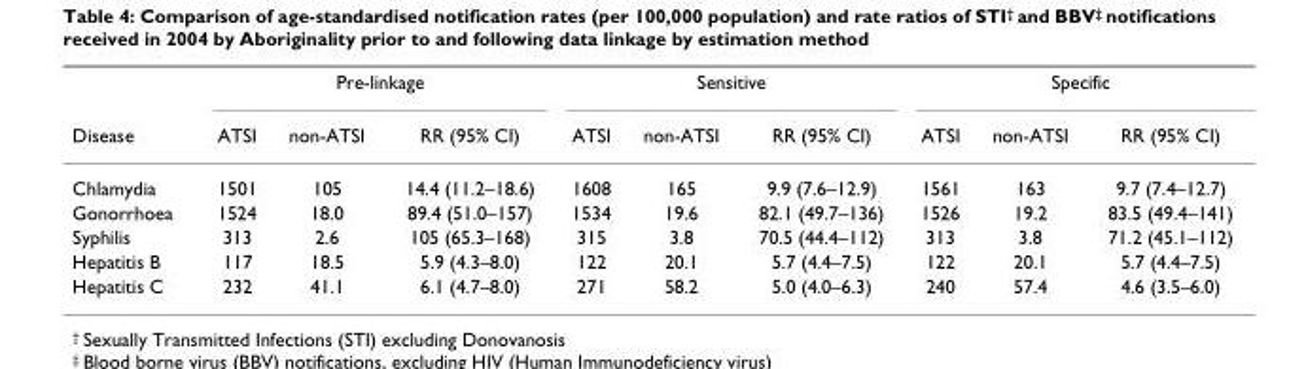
<table><thead><tr><td rowspan="2">Disease</td><td colspan="3">Pre-linkage</td><td colspan="3">Sensitive</td><td colspan="3">Specific</td></tr><tr><td>ATSI</td><td>non-ATSI</td><td>RR (95% CI)</td><td>ATSI</td><td>non-ATSI</td><td>RR (95% CI)</td><td>ATSI</td><td>non-ATSI</td><td>RR (95% CI)</td></tr></thead><tbody><tr><td>Chlamydia</td><td>1501</td><td>105</td><td>14.4 (11.2–18.6)</td><td>1608</td><td>165</td><td>9.9 (7.6–12.9)</td><td>1561</td><td>163</td><td>9.7 (7.4–12.7)</td></tr><tr><td>Gonorrhoea</td><td>1524</td><td>18.0</td><td>89.4 (51.0–157)</td><td>1534</td><td>19.6</td><td>82.1 (49.7–136)</td><td>1526</td><td>19.2</td><td>83.5 (49.4–141)</td></tr><tr><td>Syphilis</td><td>313</td><td>2.6</td><td>105 (65.3–168)</td><td>315</td><td>3.8</td><td>70.5 (44.4–112)</td><td>313</td><td>3.8</td><td>71.2 (45.1–112)</td></tr><tr><td>Hepatitis B</td><td>117</td><td>18.5</td><td>5.9 (4.3–8.0)</td><td>122</td><td>20.1</td><td>5.7 (4.4–7.5)</td><td>122</td><td>20.1</td><td>5.7 (4.4–7.5)</td></tr><tr><td>Hepatitis C</td><td>232</td><td>41.1</td><td>6.1 (4.7–8.0)</td><td>271</td><td>58.2</td><td>5.0 (4.0–6.3)</td><td>240</td><td>57.4</td><td>4.6 (3.5–6.0)</td></tr></tbody></table>